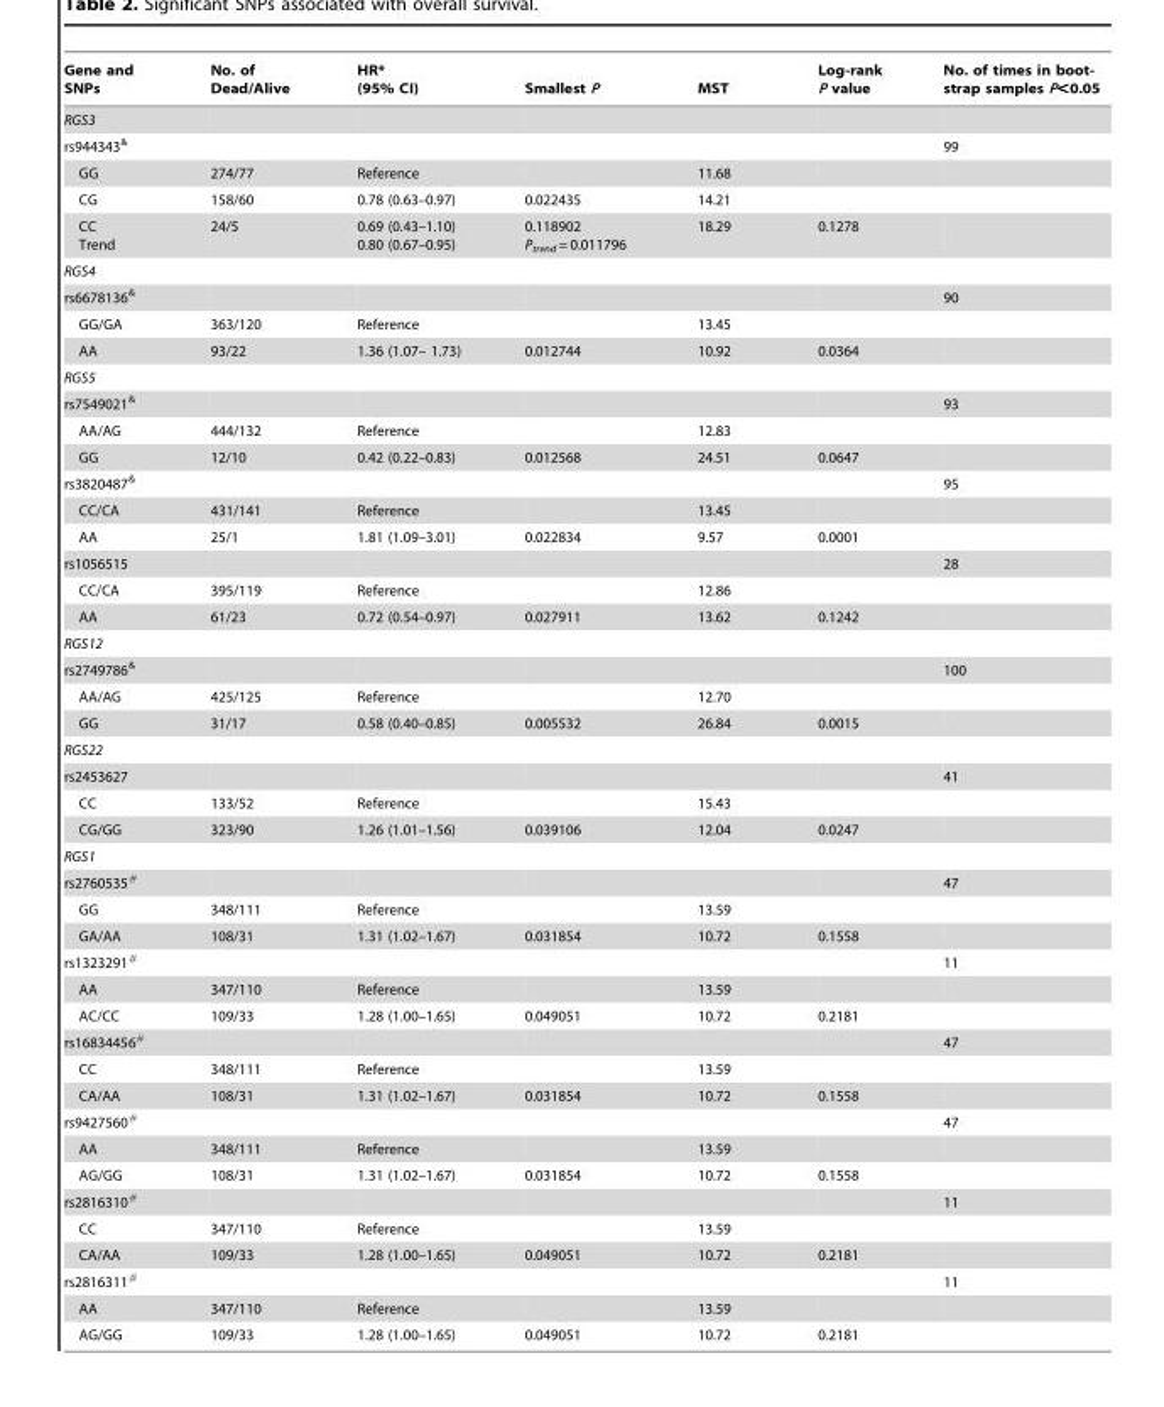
<table><thead><tr><td>Gene and SNPs</td><td>No. of Dead/Alive</td><td>HR* (95% CI)</td><td>Smallest P</td><td>MST</td><td>Log-rank P value</td><td>No. of times in boot- strap samples P,0.05</td></tr></thead><tbody><tr><td colspan="7">RGS3</td></tr><tr><td>rs944343&amp;</td><td></td><td></td><td></td><td></td><td></td><td>99</td></tr><tr><td>GG</td><td>274/77</td><td>Reference</td><td></td><td>11.68</td><td></td><td></td></tr><tr><td>CG</td><td>158/60</td><td>0.78 (0.63–0.97)</td><td>0.022435</td><td>14.21</td><td></td><td></td></tr><tr><td>CC Trend</td><td>24/5</td><td>0.69 (0.43–1.10) 0.80 (0.67–0.95)</td><td>0.118902 P<sub>trend</sub> = 0.011796</td><td>18.29</td><td>0.1278</td><td></td></tr><tr><td colspan="7">RGS4</td></tr><tr><td>rs6678136&amp;</td><td></td><td></td><td></td><td></td><td></td><td>90</td></tr><tr><td>GG/GA</td><td>363/120</td><td>Reference</td><td></td><td>13.45</td><td></td><td></td></tr><tr><td>AA</td><td>93/22</td><td>1.36 (1.07– 1.73)</td><td>0.012744</td><td>10.92</td><td>0.0364</td><td></td></tr><tr><td colspan="7">RGS5</td></tr><tr><td>rs7549021&amp;</td><td></td><td></td><td></td><td></td><td></td><td>93</td></tr><tr><td>AA/AG</td><td>444/132</td><td>Reference</td><td></td><td>12.83</td><td></td><td></td></tr><tr><td>GG</td><td>12/10</td><td>0.42 (0.22–0.83)</td><td>0.012568</td><td>24.51</td><td>0.0647</td><td></td></tr><tr><td>rs3820487&amp;</td><td></td><td></td><td></td><td></td><td></td><td>95</td></tr><tr><td>CC/CA</td><td>431/141</td><td>Reference</td><td></td><td>13.45</td><td></td><td></td></tr><tr><td>AA</td><td>25/1</td><td>1.81 (1.09–3.01)</td><td>0.022834</td><td>9.57</td><td>0.0001</td><td></td></tr><tr><td>rs1056515</td><td></td><td></td><td></td><td></td><td></td><td>28</td></tr><tr><td>CC/CA</td><td>395/119</td><td>Reference</td><td></td><td>12.86</td><td></td><td></td></tr><tr><td>AA</td><td>61/23</td><td>0.72 (0.54–0.97)</td><td>0.027911</td><td>13.62</td><td>0.1242</td><td></td></tr><tr><td colspan="7">RGS12</td></tr><tr><td>rs2749786&amp;</td><td></td><td></td><td></td><td></td><td></td><td>100</td></tr><tr><td>AA/AG</td><td>425/125</td><td>Reference</td><td></td><td>12.70</td><td></td><td></td></tr><tr><td>GG</td><td>31/17</td><td>0.58 (0.40–0.85)</td><td>0.005532</td><td>26.84</td><td>0.0015</td><td></td></tr><tr><td colspan="7">RGS22</td></tr><tr><td>rs2453627</td><td></td><td></td><td></td><td></td><td></td><td>41</td></tr><tr><td>CC</td><td>133/52</td><td>Reference</td><td></td><td>15.43</td><td></td><td></td></tr><tr><td>CG/GG</td><td>323/90</td><td>1.26 (1.01–1.56)</td><td>0.039106</td><td>12.04</td><td>0.0247</td><td></td></tr><tr><td colspan="7">RGS1</td></tr><tr><td>rs2760535#</td><td></td><td></td><td></td><td></td><td></td><td>47</td></tr><tr><td>GG</td><td>348/111</td><td>Reference</td><td></td><td>13.59</td><td></td><td></td></tr><tr><td>GA/AA</td><td>108/31</td><td>1.31 (1.02–1.67)</td><td>0.031854</td><td>10.72</td><td>0.1558</td><td></td></tr><tr><td>rs1323291#</td><td></td><td></td><td></td><td></td><td></td><td>11</td></tr><tr><td>AA</td><td>347/110</td><td>Reference</td><td></td><td>13.59</td><td></td><td></td></tr><tr><td>AC/CC</td><td>109/33</td><td>1.28 (1.00–1.65)</td><td>0.049051</td><td>10.72</td><td>0.2181</td><td></td></tr><tr><td>rs16834456#</td><td></td><td></td><td></td><td></td><td></td><td>47</td></tr><tr><td>CC</td><td>348/111</td><td>Reference</td><td></td><td>13.59</td><td></td><td></td></tr><tr><td>CA/AA</td><td>108/31</td><td>1.31 (1.02–1.67)</td><td>0.031854</td><td>10.72</td><td>0.1558</td><td></td></tr><tr><td>rs9427560#</td><td></td><td></td><td></td><td></td><td></td><td>47</td></tr><tr><td>AA</td><td>348/111</td><td>Reference</td><td></td><td>13.59</td><td></td><td></td></tr><tr><td>AG/GG</td><td>108/31</td><td>1.31 (1.02–1.67)</td><td>0.031854</td><td>10.72</td><td>0.1558</td><td></td></tr><tr><td>rs2816310#</td><td></td><td></td><td></td><td></td><td></td><td>11</td></tr><tr><td>CC</td><td>347/110</td><td>Reference</td><td></td><td>13.59</td><td></td><td></td></tr><tr><td>CA/AA</td><td>109/33</td><td>1.28 (1.00–1.65)</td><td>0.049051</td><td>10.72</td><td>0.2181</td><td></td></tr><tr><td>rs2816311#</td><td></td><td></td><td></td><td></td><td></td><td>11</td></tr><tr><td>AA</td><td>347/110</td><td>Reference</td><td></td><td>13.59</td><td></td><td></td></tr><tr><td>AG/GG</td><td>109/33</td><td>1.28 (1.00–1.65)</td><td>0.049051</td><td>10.72</td><td>0.2181</td><td></td></tr></tbody></table>